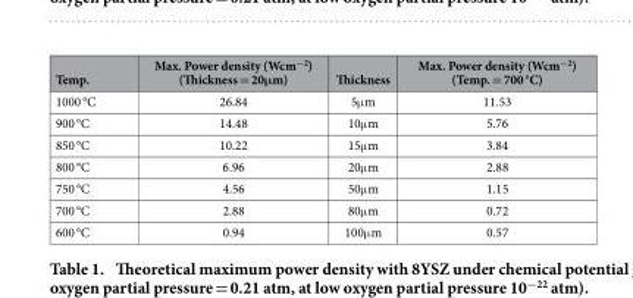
<table><thead><tr><td>Temp.</td><td>Max. Power density (Wcm<sup>−2</sup>) (Thickness = 20μm)</td><td>Thickness</td><td>Max. Power density (Wcm<sup>−2</sup>) (Temp. = 700 °C)</td></tr></thead><tbody><tr><td>1000 °C</td><td>26.84</td><td>5μ m</td><td>11.53</td></tr><tr><td>900 °C</td><td>14.48</td><td>10μ m</td><td>5.76</td></tr><tr><td>850 °C</td><td>10.22</td><td>15μ m</td><td>3.84</td></tr><tr><td>800 °C</td><td>6.96</td><td>20μ m</td><td>2.88</td></tr><tr><td>750 °C</td><td>4.56</td><td>50μ m</td><td>1.15</td></tr><tr><td>700 °C</td><td>2.88</td><td>80μ m</td><td>0.72</td></tr><tr><td>600 °C</td><td>0.94</td><td>100μ m</td><td>0.57</td></tr></tbody></table>